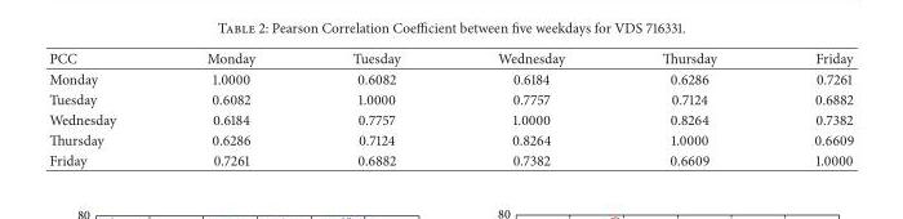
<table><thead><tr><td>PCC</td><td>Monday</td><td>Tuesday</td><td>Wednesday</td><td>Thursday</td><td>Friday</td></tr></thead><tbody><tr><td>Monday</td><td>1.0000</td><td>0.6082</td><td>0.6184</td><td>0.6286</td><td>0.7261</td></tr><tr><td>Tuesday</td><td>0.6082</td><td>1.0000</td><td>0.7757</td><td>0.7124</td><td>0.6882</td></tr><tr><td>Wednesday</td><td>0.6184</td><td>0.7757</td><td>1.0000</td><td>0.8264</td><td>0.7382</td></tr><tr><td>Thursday</td><td>0.6286</td><td>0.7124</td><td>0.8264</td><td>1.0000</td><td>0.6609</td></tr><tr><td>Friday</td><td>0.7261</td><td>0.6882</td><td>0.7382</td><td>0.6609</td><td>1.0000</td></tr></tbody></table>